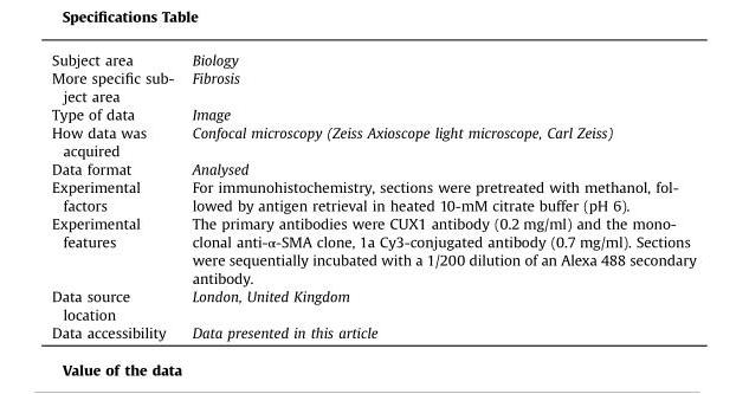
<table><tbody><tr><td>Subject area</td><td>Biology</td></tr><tr><td>More specific sub- ject area</td><td>Fibrosis</td></tr><tr><td>Type of data</td><td>Image</td></tr><tr><td>How data was acquired</td><td>Confocal microscopy (Zeiss Axioscope light microscope, Carl Zeiss)</td></tr><tr><td>Data format</td><td>Analysed</td></tr><tr><td>Experimental factors</td><td>For immunohistochemistry, sections were pretreated with methanol, fol- lowed by antigen retrieval in heated 10-mM citrate buffer (pH 6).</td></tr><tr><td>Experimental features</td><td>The primary antibodies were CUX1 antibody (0.2 mg/ml) and the mono- clonal anti-α-SMA clone, 1a Cy3-conjugated antibody (0.7 mg/ml). Sections were sequentially incubated with a 1/200 dilution of an Alexa 488 secondary antibody.</td></tr><tr><td>Data source location</td><td>London, United Kingdom</td></tr><tr><td>Data accessibility</td><td>Data presented in this article</td></tr></tbody></table>